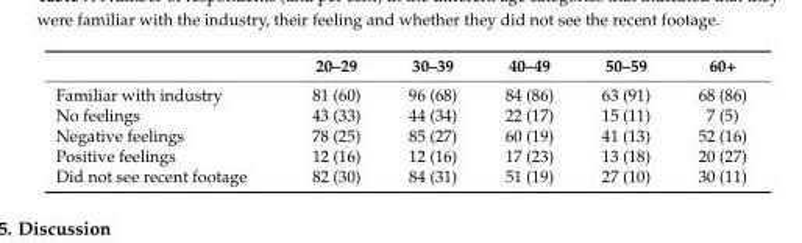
<table><thead><tr><td></td><td>20–29</td><td>30–39</td><td>40–49</td><td>50–59</td><td>60+</td></tr></thead><tbody><tr><td>Familiar with industry</td><td>81 (60)</td><td>96 (68)</td><td>84 (86)</td><td>63 (91)</td><td>68 (86)</td></tr><tr><td>No feelings</td><td>43 (33)</td><td>44 (34)</td><td>22 (17)</td><td>15 (11)</td><td>7 (5)</td></tr><tr><td>Negative feelings</td><td>78 (25)</td><td>85 (27)</td><td>60 (19)</td><td>41 (13)</td><td>52 (16)</td></tr><tr><td>Positive feelings</td><td>12 (16)</td><td>12 (16)</td><td>17 (23)</td><td>13 (18)</td><td>20 (27)</td></tr><tr><td>Did not see recent footage</td><td>82 (30)</td><td>84 (31)</td><td>51 (19)</td><td>27 (10)</td><td>30 (11)</td></tr></tbody></table>